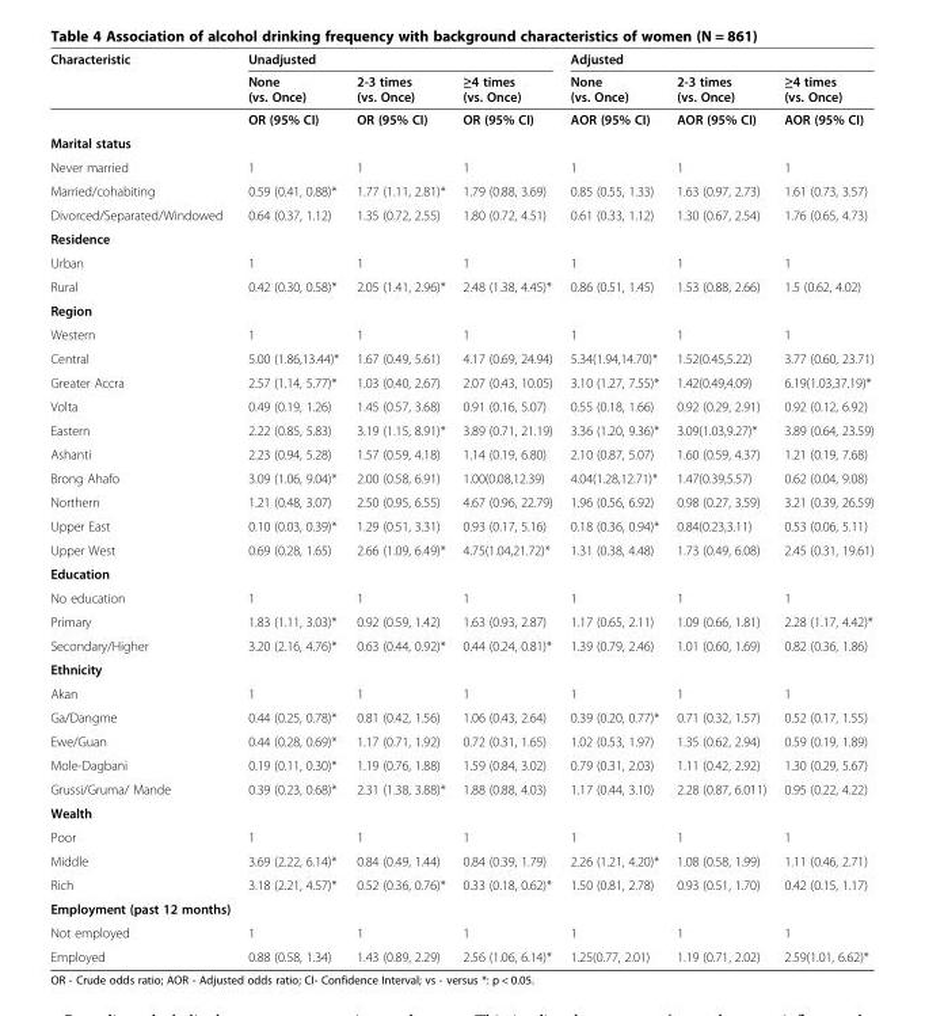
<table><thead><tr><td rowspan="2">Characteristic</td><td colspan="3">Unadjusted</td><td colspan="3">Adjusted</td></tr><tr><td>None (vs. Once)</td><td>2-3 times (vs. Once)</td><td>≥4 times (vs. Once)</td><td>None (vs. Once)</td><td>2-3 times (vs. Once)</td><td>≥4 times (vs. Once)</td></tr></thead><tbody><tr><td></td><td>OR (95% CI)</td><td>OR (95% CI)</td><td>OR (95% CI)</td><td>AOR (95% CI)</td><td>AOR (95% CI)</td><td>AOR (95% CI)</td></tr><tr><td colspan="7">Marital status</td></tr><tr><td>Never married</td><td>1</td><td>1</td><td>1</td><td>1</td><td>1</td><td>1</td></tr><tr><td>Married/cohabiting</td><td>0.59 (0.41, 0.88)*</td><td>1.77 (1.11, 2.81)*</td><td>1.79 (0.88, 3.69)</td><td>0.85 (0.55, 1.33)</td><td>1.63 (0.97, 2.73)</td><td>1.61 (0.73, 3.57)</td></tr><tr><td>Divorced/Separated/Windowed</td><td>0.64 (0.37, 1.12)</td><td>1.35 (0.72, 2.55)</td><td>1.80 (0.72, 4.51)</td><td>0.61 (0.33, 1.12)</td><td>1.30 (0.67, 2.54)</td><td>1.76 (0.65, 4.73)</td></tr><tr><td colspan="7">Residence</td></tr><tr><td>Urban</td><td>1</td><td>1</td><td>1</td><td>1</td><td>1</td><td>1</td></tr><tr><td>Rural</td><td>0.42 (0.30, 0.58)*</td><td>2.05 (1.41, 2.96)*</td><td>2.48 (1.38, 4.45)*</td><td>0.86 (0.51, 1.45)</td><td>1.53 (0.88, 2.66)</td><td>1.5 (0.62, 4.02)</td></tr><tr><td colspan="7">Region</td></tr><tr><td>Western</td><td>1</td><td>1</td><td>1</td><td>1</td><td>1</td><td>1</td></tr><tr><td>Central</td><td>5.00 (1.86,13.44)*</td><td>1.67 (0.49, 5.61)</td><td>4.17 (0.69, 24.94)</td><td>5.34(1.94,14.70)*</td><td>1.52(0.45,5.22)</td><td>3.77 (0.60, 23.71)</td></tr><tr><td>Greater Accra</td><td>2.57 (1.14, 5.77)*</td><td>1.03 (0.40, 2.67)</td><td>2.07 (0.43, 10.05)</td><td>3.10 (1.27, 7.55)*</td><td>1.42(0.49,4.09)</td><td>6.19(1.03,37.19)*</td></tr><tr><td>Volta</td><td>0.49 (0.19, 1.26)</td><td>1.45 (0.57, 3.68)</td><td>0.91 (0.16, 5.07)</td><td>0.55 (0.18, 1.66)</td><td>0.92 (0.29, 2.91)</td><td>0.92 (0.12, 6.92)</td></tr><tr><td>Eastern</td><td>2.22 (0.85, 5.83)</td><td>3.19 (1.15, 8.91)*</td><td>3.89 (0.71, 21.19)</td><td>3.36 (1.20, 9.36)*</td><td>3.09(1.03,9.27)*</td><td>3.89 (0.64, 23.59)</td></tr><tr><td>Ashanti</td><td>2.23 (0.94, 5.28)</td><td>1.57 (0.59, 4.18)</td><td>1.14 (0.19, 6.80)</td><td>2.10 (0.87, 5.07)</td><td>1.60 (0.59, 4.37)</td><td>1.21 (0.19, 7.68)</td></tr><tr><td>Brong Ahafo</td><td>3.09 (1.06, 9.04)*</td><td>2.00 (0.58, 6.91)</td><td>1.00(0.08,12.39)</td><td>4.04(1.28,12.71)*</td><td>1.47(0.39,5.57)</td><td>0.62 (0.04, 9.08)</td></tr><tr><td>Northern</td><td>1.21 (0.48, 3.07)</td><td>2.50 (0.95, 6.55)</td><td>4.67 (0.96, 22.79)</td><td>1.96 (0.56, 6.92)</td><td>0.98 (0.27, 3.59)</td><td>3.21 (0.39, 26.59)</td></tr><tr><td>Upper East</td><td>0.10 (0.03, 0.39)*</td><td>1.29 (0.51, 3.31)</td><td>0.93 (0.17, 5.16)</td><td>0.18 (0.36, 0.94)*</td><td>0.84(0.23,3.11)</td><td>0.53 (0.06, 5.11)</td></tr><tr><td>Upper West</td><td>0.69 (0.28, 1.65)</td><td>2.66 (1.09, 6.49)*</td><td>4.75(1.04,21.72)*</td><td>1.31 (0.38, 4.48)</td><td>1.73 (0.49, 6.08)</td><td>2.45 (0.31, 19.61)</td></tr><tr><td colspan="7">Education</td></tr><tr><td>No education</td><td>1</td><td>1</td><td>1</td><td>1</td><td>1</td><td>1</td></tr><tr><td>Primary</td><td>1.83 (1.11, 3.03)*</td><td>0.92 (0.59, 1.42)</td><td>1.63 (0.93, 2.87)</td><td>1.17 (0.65, 2.11)</td><td>1.09 (0.66, 1.81)</td><td>2.28 (1.17, 4.42)*</td></tr><tr><td>Secondary/Higher</td><td>3.20 (2.16, 4.76)*</td><td>0.63 (0.44, 0.92)*</td><td>0.44 (0.24, 0.81)*</td><td>1.39 (0.79, 2.46)</td><td>1.01 (0.60, 1.69)</td><td>0.82 (0.36, 1.86)</td></tr><tr><td colspan="7">Ethnicity</td></tr><tr><td>Akan</td><td>1</td><td>1</td><td>1</td><td>1</td><td>1</td><td>1</td></tr><tr><td>Ga/Dangme</td><td>0.44 (0.25, 0.78)*</td><td>0.81 (0.42, 1.56)</td><td>1.06 (0.43, 2.64)</td><td>0.39 (0.20, 0.77)*</td><td>0.71 (0.32, 1.57)</td><td>0.52 (0.17, 1.55)</td></tr><tr><td>Ewe/Guan</td><td>0.44 (0.28, 0.69)*</td><td>1.17 (0.71, 1.92)</td><td>0.72 (0.31, 1.65)</td><td>1.02 (0.53, 1.97)</td><td>1.35 (0.62, 2.94)</td><td>0.59 (0.19, 1.89)</td></tr><tr><td>Mole-Dagbani</td><td>0.19 (0.11, 0.30)*</td><td>1.19 (0.76, 1.88)</td><td>1.59 (0.84, 3.02)</td><td>0.79 (0.31, 2.03)</td><td>1.11 (0.42, 2.92)</td><td>1.30 (0.29, 5.67)</td></tr><tr><td>Grussi/Gruma/ Mande</td><td>0.39 (0.23, 0.68)*</td><td>2.31 (1.38, 3.88)*</td><td>1.88 (0.88, 4.03)</td><td>1.17 (0.44, 3.10)</td><td>2.28 (0.87, 6.011)</td><td>0.95 (0.22, 4.22)</td></tr><tr><td colspan="7">Wealth</td></tr><tr><td>Poor</td><td>1</td><td>1</td><td>1</td><td>1</td><td>1</td><td>1</td></tr><tr><td>Middle</td><td>3.69 (2.22, 6.14)*</td><td>0.84 (0.49, 1.44)</td><td>0.84 (0.39, 1.79)</td><td>2.26 (1.21, 4.20)*</td><td>1.08 (0.58, 1.99)</td><td>1.11 (0.46, 2.71)</td></tr><tr><td>Rich</td><td>3.18 (2.21, 4.57)*</td><td>0.52 (0.36, 0.76)*</td><td>0.33 (0.18, 0.62)*</td><td>1.50 (0.81, 2.78)</td><td>0.93 (0.51, 1.70)</td><td>0.42 (0.15, 1.17)</td></tr><tr><td colspan="7">Employment (past 12 months)</td></tr><tr><td>Not employed</td><td>1</td><td>1</td><td>1</td><td>1</td><td>1</td><td>1</td></tr><tr><td>Employed</td><td>0.88 (0.58, 1.34)</td><td>1.43 (0.89, 2.29)</td><td>2.56 (1.06, 6.14)*</td><td>1.25(0.77, 2.01)</td><td>1.19 (0.71, 2.02)</td><td>2.59(1.01, 6.62)*</td></tr></tbody></table>